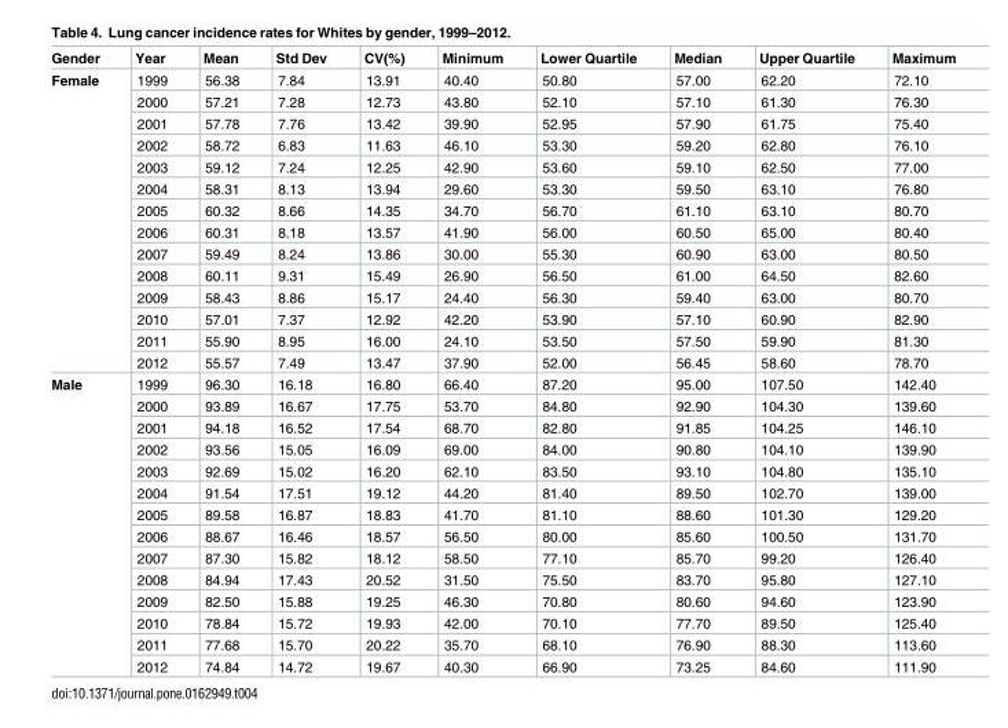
<table><thead><tr><td>Gender</td><td>Year</td><td>Mean</td><td>Std Dev</td><td>CV(%)</td><td>Minimum</td><td>Lower Quartile</td><td>Median</td><td>Upper Quartile</td><td>Maximum</td></tr></thead><tbody><tr><td rowspan="14">Female</td><td>1999</td><td>56.38</td><td>7.84</td><td>13.91</td><td>40.40</td><td>50.80</td><td>57.00</td><td>62.20</td><td>72.10</td></tr><tr><td>2000</td><td>57.21</td><td>7.28</td><td>12.73</td><td>43.80</td><td>52.10</td><td>57.10</td><td>61.30</td><td>76.30</td></tr><tr><td>2001</td><td>57.78</td><td>7.76</td><td>13.42</td><td>39.90</td><td>52.95</td><td>57.90</td><td>61.75</td><td>75.40</td></tr><tr><td>2002</td><td>58.72</td><td>6.83</td><td>11.63</td><td>46.10</td><td>53.30</td><td>59.20</td><td>62.80</td><td>76.10</td></tr><tr><td>2003</td><td>59.12</td><td>7.24</td><td>12.25</td><td>42.90</td><td>53.60</td><td>59.10</td><td>62.50</td><td>77.00</td></tr><tr><td>2004</td><td>58.31</td><td>8.13</td><td>13.94</td><td>29.60</td><td>53.30</td><td>59.50</td><td>63.10</td><td>76.80</td></tr><tr><td>2005</td><td>60.32</td><td>8.66</td><td>14.35</td><td>34.70</td><td>56.70</td><td>61.10</td><td>63.10</td><td>80.70</td></tr><tr><td>2006</td><td>60.31</td><td>8.18</td><td>13.57</td><td>41.90</td><td>56.00</td><td>60.50</td><td>65.00</td><td>80.40</td></tr><tr><td>2007</td><td>59.49</td><td>8.24</td><td>13.86</td><td>30.00</td><td>55.30</td><td>60.90</td><td>63.00</td><td>80.50</td></tr><tr><td>2008</td><td>60.11</td><td>9.31</td><td>15.49</td><td>26.90</td><td>56.50</td><td>61.00</td><td>64.50</td><td>82.60</td></tr><tr><td>2009</td><td>58.43</td><td>8.86</td><td>15.17</td><td>24.40</td><td>56.30</td><td>59.40</td><td>63.00</td><td>80.70</td></tr><tr><td>2010</td><td>57.01</td><td>7.37</td><td>12.92</td><td>42.20</td><td>53.90</td><td>57.10</td><td>60.90</td><td>82.90</td></tr><tr><td>2011</td><td>55.90</td><td>8.95</td><td>16.00</td><td>24.10</td><td>53.50</td><td>57.50</td><td>59.90</td><td>81.30</td></tr><tr><td>2012</td><td>55.57</td><td>7.49</td><td>13.47</td><td>37.90</td><td>52.00</td><td>56.45</td><td>58.60</td><td>78.70</td></tr><tr><td rowspan="14">Male</td><td>1999</td><td>96.30</td><td>16.18</td><td>16.80</td><td>66.40</td><td>87.20</td><td>95.00</td><td>107.50</td><td>142.40</td></tr><tr><td>2000</td><td>93.89</td><td>16.67</td><td>17.75</td><td>53.70</td><td>84.80</td><td>92.90</td><td>104.30</td><td>139.60</td></tr><tr><td>2001</td><td>94.18</td><td>16.52</td><td>17.54</td><td>68.70</td><td>82.80</td><td>91.85</td><td>104.25</td><td>146.10</td></tr><tr><td>2002</td><td>93.56</td><td>15.05</td><td>16.09</td><td>69.00</td><td>84.00</td><td>90.80</td><td>104.10</td><td>139.90</td></tr><tr><td>2003</td><td>92.69</td><td>15.02</td><td>16.20</td><td>62.10</td><td>83.50</td><td>93.10</td><td>104.80</td><td>135.10</td></tr><tr><td>2004</td><td>91.54</td><td>17.51</td><td>19.12</td><td>44.20</td><td>81.40</td><td>89.50</td><td>102.70</td><td>139.00</td></tr><tr><td>2005</td><td>89.58</td><td>16.87</td><td>18.83</td><td>41.70</td><td>81.10</td><td>88.60</td><td>101.30</td><td>129.20</td></tr><tr><td>2006</td><td>88.67</td><td>16.46</td><td>18.57</td><td>56.50</td><td>80.00</td><td>85.60</td><td>100.50</td><td>131.70</td></tr><tr><td>2007</td><td>87.30</td><td>15.82</td><td>18.12</td><td>58.50</td><td>77.10</td><td>85.70</td><td>99.20</td><td>126.40</td></tr><tr><td>2008</td><td>84.94</td><td>17.43</td><td>20.52</td><td>31.50</td><td>75.50</td><td>83.70</td><td>95.80</td><td>127.10</td></tr><tr><td>2009</td><td>82.50</td><td>15.88</td><td>19.25</td><td>46.30</td><td>70.80</td><td>80.60</td><td>94.60</td><td>123.90</td></tr><tr><td>2010</td><td>78.84</td><td>15.72</td><td>19.93</td><td>42.00</td><td>70.10</td><td>77.70</td><td>89.50</td><td>125.40</td></tr><tr><td>2011</td><td>77.68</td><td>15.70</td><td>20.22</td><td>35.70</td><td>68.10</td><td>76.90</td><td>88.30</td><td>113.60</td></tr><tr><td>2012</td><td>74.84</td><td>14.72</td><td>19.67</td><td>40.30</td><td>66.90</td><td>73.25</td><td>84.60</td><td>111.90</td></tr></tbody></table>